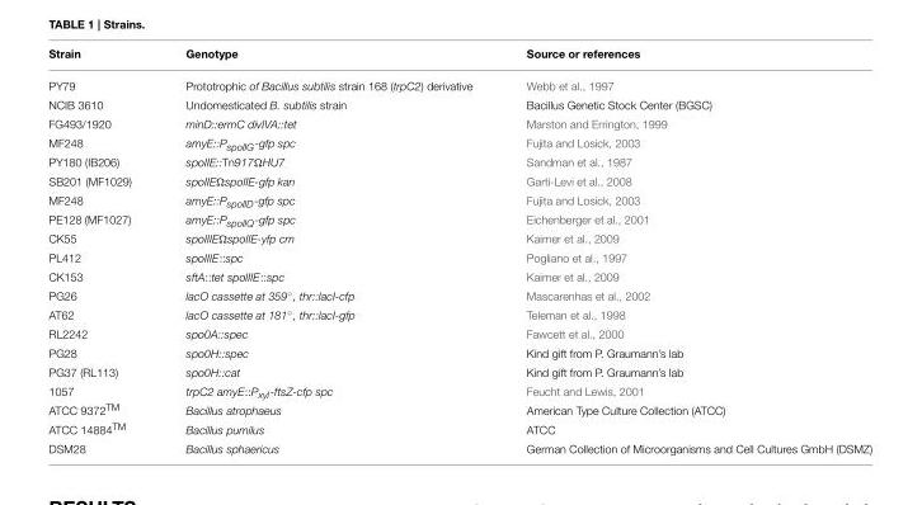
<table><thead><tr><td>Strain</td><td>Genotype</td><td>Source or references</td></tr></thead><tbody><tr><td>PY79</td><td>Prototrophic of Bacillus subtilis strain 168 (trpC2) derivative</td><td>Webb et al., 1997</td></tr><tr><td>NCIB 3610</td><td>Undomesticated B. subtilis strain</td><td>Bacillus Genetic Stock Center (BGSC)</td></tr><tr><td>FG493/1920</td><td>minD::ermC divIVA::tet</td><td>Marston and Errington, 1999</td></tr><tr><td>MF248</td><td>amyE::PspoIIG-gfp spc</td><td>Fujita and Losick, 2003</td></tr><tr><td>PY180 (IB206)</td><td>spoIIE::Tn917ΩHU7</td><td>Sandman et al., 1987</td></tr><tr><td>SB201 (MF1029)</td><td>spoIIEΩspoIIE-gfp kan</td><td>Garti-Levi et al., 2008</td></tr><tr><td>MF248</td><td>amyE::PspoIID-gfp spc</td><td>Fujita and Losick, 2003</td></tr><tr><td>PE128 (MF1027)</td><td>amyE::PspoIIQ-gfp spc</td><td>Eichenberger et al., 2001</td></tr><tr><td>CK55</td><td>spoIIIEΩspoIIE-yfp cm</td><td>Kaimer et al., 2009</td></tr><tr><td>PL412</td><td>spoIIIE::spc</td><td>Pogliano et al., 1997</td></tr><tr><td>CK153</td><td>sftA::tet spoIIIE::spc</td><td>Kaimer et al., 2009</td></tr><tr><td>PG26</td><td>lacO cassette at 359◦, thr::lacI-cfp</td><td>Mascarenhas et al., 2002</td></tr><tr><td>AT62</td><td>lacO cassette at 181◦, thr::lacI-gfp</td><td>Teleman et al., 1998</td></tr><tr><td>RL2242</td><td>spo0A::spec</td><td>Fawcett et al., 2000</td></tr><tr><td>PG28</td><td>spo0H::spec</td><td>Kind gift from P. Graumann’s lab</td></tr><tr><td>PG37 (RL113)</td><td>spo0H::cat</td><td>Kind gift from P. Graumann’s lab</td></tr><tr><td>1057</td><td>trpC2 amyE::P<sub>xyl</sub>-ftsZ-cfp spc</td><td>Feucht and Lewis, 2001</td></tr><tr><td>ATCC 9372TM</td><td>Bacillus atrophaeus</td><td>American Type Culture Collection (ATCC)</td></tr><tr><td>ATCC 14884TM</td><td>Bacillus pumilus</td><td>ATCC</td></tr><tr><td>DSM28</td><td>Bacillus sphaericus</td><td>German Collection of Microorganisms and Cell Cultures GmbH (DSMZ)</td></tr></tbody></table>